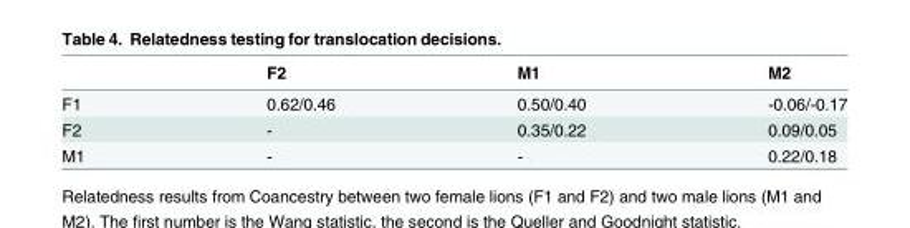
<table><thead><tr><td></td><td>F2</td><td>M1</td><td>M2</td></tr></thead><tbody><tr><td>F1</td><td>0.62/0.46</td><td>0.50/0.40</td><td>-0.06/-0.17</td></tr><tr><td>F2</td><td>-</td><td>0.35/0.22</td><td>0.09/0.05</td></tr><tr><td>M1</td><td>-</td><td>-</td><td>0.22/0.18</td></tr></tbody></table>